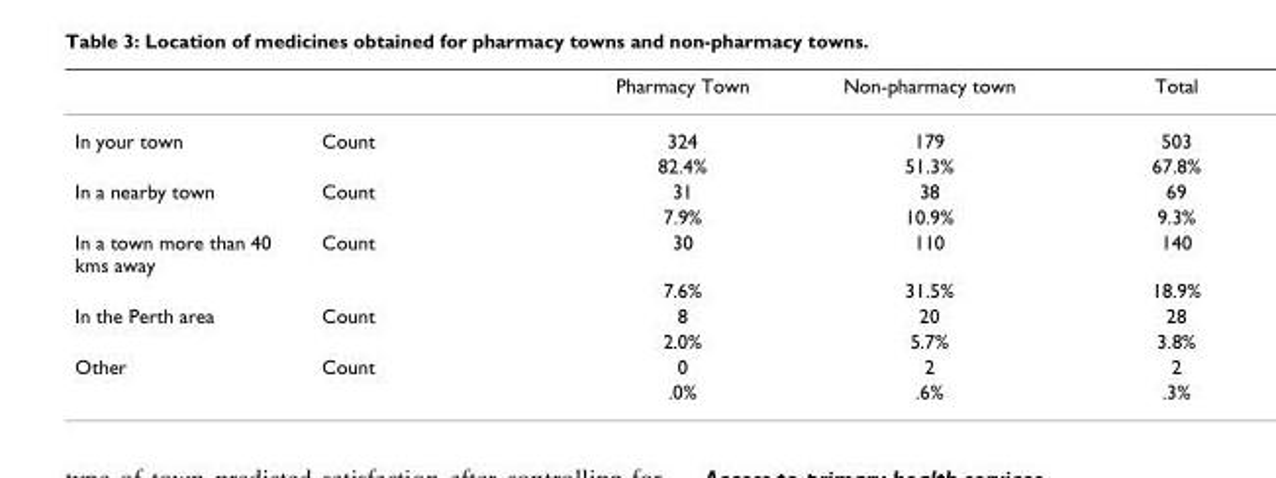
<table><thead><tr><td></td><td></td><td>Pharmacy Town</td><td>Non-pharmacy town</td><td>Total</td></tr></thead><tbody><tr><td rowspan="2">In your town</td><td>Count</td><td>324</td><td>179</td><td>503</td></tr><tr><td></td><td>82.4%</td><td>51.3%</td><td>67.8%</td></tr><tr><td rowspan="2">In a nearby town</td><td>Count</td><td>31</td><td>38</td><td>69</td></tr><tr><td></td><td>7.9%</td><td>10.9%</td><td>9.3%</td></tr><tr><td rowspan="2">In a town more than 40 kms away</td><td>Count</td><td>30</td><td>110</td><td>140</td></tr><tr><td></td><td>7.6%</td><td>31.5%</td><td>18.9%</td></tr><tr><td rowspan="2">In the Perth area</td><td>Count</td><td>8</td><td>20</td><td>28</td></tr><tr><td></td><td>2.0%</td><td>5.7%</td><td>3.8%</td></tr><tr><td rowspan="2">Other</td><td>Count</td><td>0</td><td>2</td><td>2</td></tr><tr><td></td><td>.0%</td><td>.6%</td><td>.3%</td></tr></tbody></table>